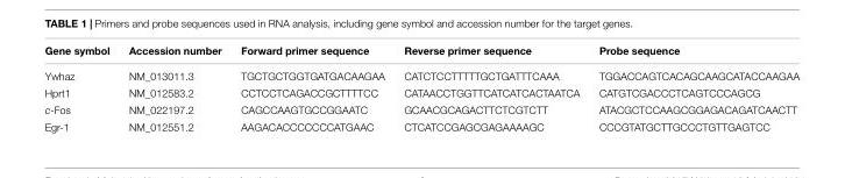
<table><thead><tr><td>Gene symbol</td><td>Accession number</td><td>Forward primer sequence</td><td>Reverse primer sequence</td><td>Probe sequence</td></tr></thead><tbody><tr><td>Ywhaz</td><td>NM_013011.3</td><td>TGCTGCTGGTGATGACAAGAA</td><td>CATCTCCTTTTTGCTGATTTCAAA</td><td>TGGACCAGTCACAGCAAGCATACCAAGAA</td></tr><tr><td>Hprt1</td><td>NM_012583.2</td><td>CCTCCTCAGACCGCTTTTCC</td><td>CATAACCTGGTTCATCATCACTAATCA</td><td>CATGTCGACCCTCAGTCCCAGCG</td></tr><tr><td>c-Fos</td><td>NM_022197.2</td><td>CAGCCAAGTGCCGGAATC</td><td>GCAACGCAGACTTCTCGTCTT</td><td>ATACGCTCCAAGCGGAGACAGATCAACTT</td></tr><tr><td>Egr-1</td><td>NM_012551.2</td><td>AAGACACCCCCCCATGAAC</td><td>CTCATCCGAGCGAGAAAAGC</td><td>CCCGTATGCTTGCCCTGTTGAGTCC</td></tr></tbody></table>